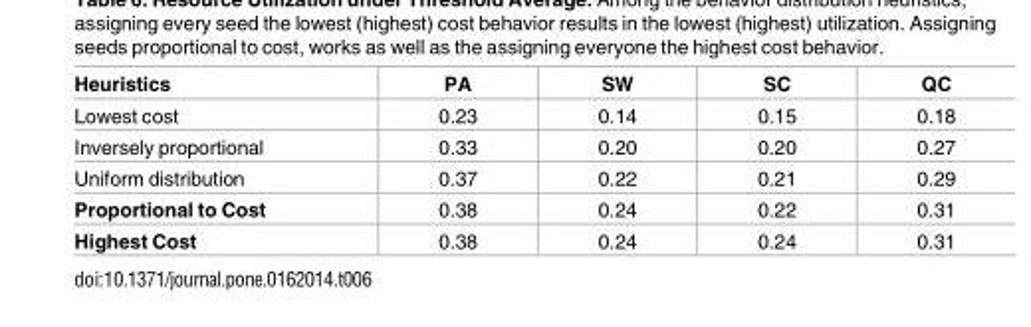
<table><thead><tr><td>Heuristics</td><td>PA</td><td>SW</td><td>SC</td><td>QC</td></tr></thead><tbody><tr><td>Lowest cost</td><td>0.23</td><td>0.14</td><td>0.15</td><td>0.18</td></tr><tr><td>Inversely proportional</td><td>0.33</td><td>0.20</td><td>0.20</td><td>0.27</td></tr><tr><td>Uniform distribution</td><td>0.37</td><td>0.22</td><td>0.21</td><td>0.29</td></tr><tr><td>Proportional to Cost</td><td>0.38</td><td>0.24</td><td>0.22</td><td>0.31</td></tr><tr><td>Highest Cost</td><td>0.38</td><td>0.24</td><td>0.24</td><td>0.31</td></tr></tbody></table>